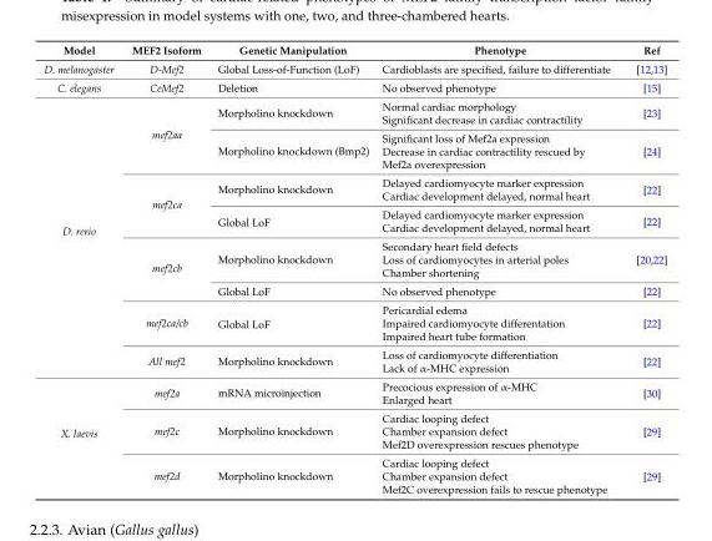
<table><thead><tr><td>Model</td><td>MEF2 Isoform</td><td>Genetic Manipulation</td><td>Phenotype</td><td>Ref</td></tr></thead><tbody><tr><td>D. melanogaster</td><td>D-Mef2</td><td>Global Loss-of-Function (LoF)</td><td>Cardioblasts are specified, failure to differentiate</td><td>[12,13]</td></tr><tr><td>C. elegans</td><td>CeMef2</td><td>Deletion</td><td>No observed phenotype</td><td>[15]</td></tr><tr><td rowspan="17">D. rerio</td><td rowspan="4">mef2aa</td><td rowspan="2">Morpholino knockdown</td><td>Normal cardiac morphology</td><td rowspan="2">[23]</td></tr><tr><td>Significant decrease in cardiac contractility</td></tr><tr><td rowspan="2">Morpholino knockdown (Bmp2)</td><td>Significant loss of Mef2a expression</td><td rowspan="2">[24]</td></tr><tr><td>Decrease in cardiac contractility rescued by Mef2a overexpression</td></tr><tr><td rowspan="4">mef2ca</td><td rowspan="2">Morpholino knockdown</td><td>Delayed cardiomyocyte marker expression</td><td rowspan="2">[22]</td></tr><tr><td>Cardiac development delayed, normal heart</td></tr><tr><td rowspan="2">Global LoF</td><td>Delayed cardiomyocyte marker expression</td><td rowspan="2">[22]</td></tr><tr><td>Cardiac development delayed, normal heart</td></tr><tr><td rowspan="4">mef2cb</td><td rowspan="3">Morpholino knockdown</td><td>Secondary heart field defects</td><td rowspan="3">[20,22]</td></tr><tr><td>Loss of cardiomyocytes in arterial poles</td></tr><tr><td>Chamber shortening</td></tr><tr><td>Global LoF</td><td>No observed phenotype</td><td>[22]</td></tr><tr><td rowspan="3">mef2ca/cb</td><td rowspan="3">Global LoF</td><td>Pericardial edema</td><td rowspan="3">[22]</td></tr><tr><td>Impaired cardiomyocyte differentation</td></tr><tr><td>Impaired heart tube formation</td></tr><tr><td rowspan="2">All mef2</td><td rowspan="2">Morpholino knockdown</td><td>Loss of cardiomyocyte differentiation</td><td rowspan="2">[22]</td></tr><tr><td>Lack of α-MHC expression</td></tr><tr><td rowspan="8">X. laevis</td><td rowspan="2">mef2a</td><td rowspan="2">mRNA microinjection</td><td>Precocious expression of α-MHC</td><td rowspan="2">[30]</td></tr><tr><td>Enlarged heart</td></tr><tr><td rowspan="3">mef2c</td><td rowspan="3">Morpholino knockdown</td><td>Cardiac looping defect</td><td rowspan="3">[29]</td></tr><tr><td>Chamber expansion defect</td></tr><tr><td>Mef2D overexpression rescues phenotype</td></tr><tr><td rowspan="3">mef2d</td><td rowspan="3">Morpholino knockdown</td><td>Cardiac looping defect</td><td rowspan="3">[29]</td></tr><tr><td>Chamber expansion defect</td></tr><tr><td>Mef2C overexpression fails to rescue phenotype</td></tr></tbody></table>